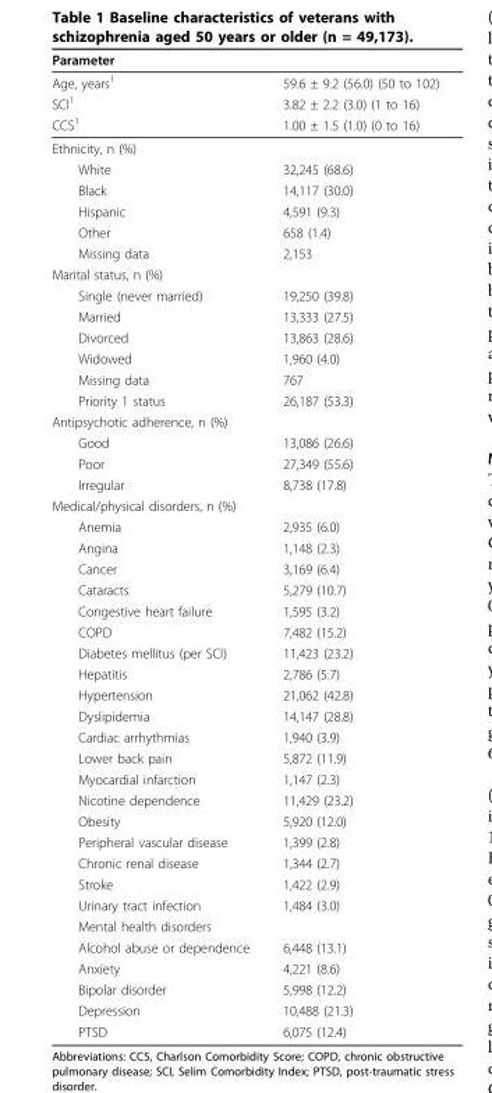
<table><thead><tr><td>Parameter</td><td></td></tr></thead><tbody><tr><td>Age, years<sup>1</sup></td><td>59.6 ± 9.2 (56.0) (50 to 102)</td></tr><tr><td>SCI<sup>1</sup></td><td>3.82 ± 2.2 (3.0) (1 to 16)</td></tr><tr><td>CCS<sup>1</sup></td><td>1.00 ± 1.5 (1.0) (0 to 16)</td></tr><tr><td colspan="2">Ethnicity, n (%)</td></tr><tr><td>White</td><td>32,245 (68.6)</td></tr><tr><td>Black</td><td>14,117 (30.0)</td></tr><tr><td>Hispanic</td><td>4,591 (9.3)</td></tr><tr><td>Other</td><td>658 (1.4)</td></tr><tr><td>Missing data</td><td>2,153</td></tr><tr><td colspan="2">Marital status, n (%)</td></tr><tr><td>Single (never married)</td><td>19,250 (39.8)</td></tr><tr><td>Married</td><td>13,333 (27.5)</td></tr><tr><td>Divorced</td><td>13,863 (28.6)</td></tr><tr><td>Widowed</td><td>1,960 (4.0)</td></tr><tr><td>Missing data</td><td>767</td></tr><tr><td>Priority 1 status</td><td>26,187 (53.3)</td></tr><tr><td colspan="2">Antipsychotic adherence, n (%)</td></tr><tr><td>Good</td><td>13,086 (26.6)</td></tr><tr><td>Poor</td><td>27,349 (55.6)</td></tr><tr><td>Irregular</td><td>8,738 (17.8)</td></tr><tr><td colspan="2">Medical/physical disorders, n (%)</td></tr><tr><td>Anemia</td><td>2,935 (6.0)</td></tr><tr><td>Angina</td><td>1,148 (2.3)</td></tr><tr><td>Cancer</td><td>3,169 (6.4)</td></tr><tr><td>Cataracts</td><td>5,279 (10.7)</td></tr><tr><td>Congestive heart failure</td><td>1,595 (3.2)</td></tr><tr><td>COPD</td><td>7,482 (15.2)</td></tr><tr><td>Diabetes mellitus (per SCI)</td><td>11,423 (23.2)</td></tr><tr><td>Hepatitis</td><td>2,786 (5.7)</td></tr><tr><td>Hypertension</td><td>21,062 (42.8)</td></tr><tr><td>Dyslipidemia</td><td>14,147 (28.8)</td></tr><tr><td>Cardiac arrhythmias</td><td>1,940 (3.9)</td></tr><tr><td>Lower back pain</td><td>5,872 (11.9)</td></tr><tr><td>Myocardial infarction</td><td>1,147 (2.3)</td></tr><tr><td>Nicotine dependence</td><td>11,429 (23.2)</td></tr><tr><td>Obesity</td><td>5,920 (12.0)</td></tr><tr><td>Peripheral vascular disease</td><td>1,399 (2.8)</td></tr><tr><td>Chronic renal disease</td><td>1,344 (2.7)</td></tr><tr><td>Stroke</td><td>1,422 (2.9)</td></tr><tr><td>Urinary tract infection</td><td>1,484 (3.0)</td></tr><tr><td colspan="2">Mental health disorders</td></tr><tr><td>Alcohol abuse or dependence</td><td>6,448 (13.1)</td></tr><tr><td>Anxiety</td><td>4,221 (8.6)</td></tr><tr><td>Bipolar disorder</td><td>5,998 (12.2)</td></tr><tr><td>Depression</td><td>10,488 (21.3)</td></tr><tr><td>PTSD</td><td>6,075 (12.4)</td></tr></tbody></table>